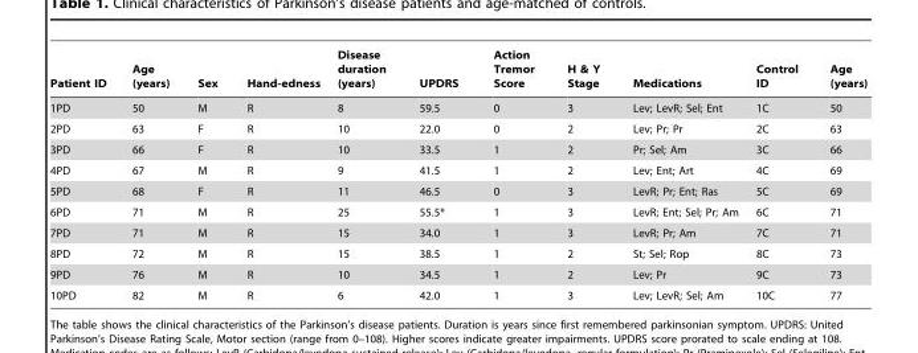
<table><thead><tr><td>Patient ID</td><td>Age (years)</td><td>Sex</td><td>Hand-edness</td><td>Disease duration (years)</td><td>UPDRS</td><td>Action Tremor Score</td><td>H &amp; Y Stage</td><td>Medications</td><td>Control ID</td><td>Age (years)</td></tr></thead><tbody><tr><td>1PD</td><td>50</td><td>M</td><td>R</td><td>8</td><td>59.5</td><td>0</td><td>3</td><td>Lev; LevR; Sel; Ent</td><td>1C</td><td>50</td></tr><tr><td>2PD</td><td>63</td><td>F</td><td>R</td><td>10</td><td>22.0</td><td>0</td><td>2</td><td>Lev; Pr; Pr</td><td>2C</td><td>63</td></tr><tr><td>3PD</td><td>66</td><td>F</td><td>R</td><td>10</td><td>33.5</td><td>1</td><td>2</td><td>Pr; Sel; Am</td><td>3C</td><td>66</td></tr><tr><td>4PD</td><td>67</td><td>M</td><td>R</td><td>9</td><td>41.5</td><td>1</td><td>2</td><td>Lev; Ent; Art</td><td>4C</td><td>69</td></tr><tr><td>5PD</td><td>68</td><td>F</td><td>R</td><td>11</td><td>46.5</td><td>0</td><td>3</td><td>LevR; Pr; Ent; Ras</td><td>5C</td><td>69</td></tr><tr><td>6PD</td><td>71</td><td>M</td><td>R</td><td>25</td><td>55.5*</td><td>1</td><td>3</td><td>LevR; Ent; Sel; Pr; Am</td><td>6C</td><td>71</td></tr><tr><td>7PD</td><td>71</td><td>M</td><td>R</td><td>15</td><td>34.0</td><td>1</td><td>3</td><td>LevR; Pr; Am</td><td>7C</td><td>71</td></tr><tr><td>8PD</td><td>72</td><td>M</td><td>R</td><td>15</td><td>38.5</td><td>1</td><td>2</td><td>St; Sel; Rop</td><td>8C</td><td>73</td></tr><tr><td>9PD</td><td>76</td><td>M</td><td>R</td><td>10</td><td>34.5</td><td>1</td><td>2</td><td>Lev; Pr</td><td>9C</td><td>73</td></tr><tr><td>10PD</td><td>82</td><td>M</td><td>R</td><td>6</td><td>42.0</td><td>1</td><td>3</td><td>Lev; LevR; Sel; Am</td><td>10C</td><td>77</td></tr></tbody></table>